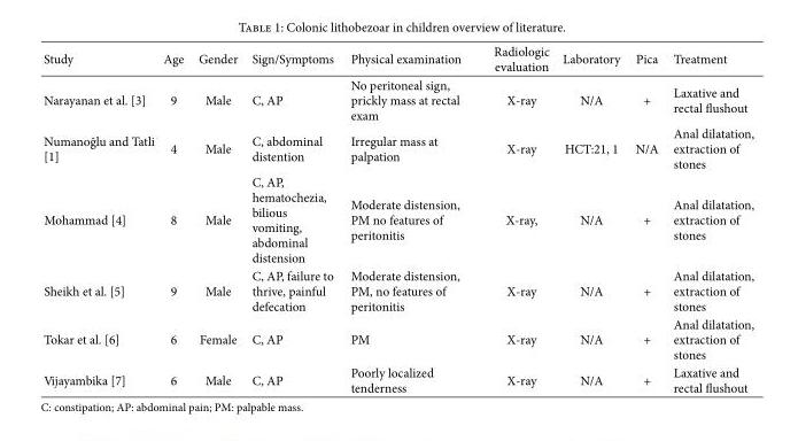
<table><thead><tr><td>Study</td><td>Age</td><td>Gender</td><td>Sign/Symptoms</td><td>Physical examination</td><td>Radiologic evaluation</td><td>Laboratory</td><td>Pica</td><td>Treatment</td></tr></thead><tbody><tr><td>Narayanan et al. [3]</td><td>9</td><td>Male</td><td>C, AP</td><td>No peritoneal sign, prickly mass at rectal exam</td><td>X-ray</td><td>N/A</td><td>+</td><td>Laxative and rectal �ushout</td></tr><tr><td>Numanoğlu and Tatli [1]</td><td>4</td><td>Male</td><td>C, abdominal distention</td><td>Irregular mass at palpation</td><td>X-ray</td><td>HCT:21, 1</td><td>N/A</td><td>Anal dilatation, extraction of stones</td></tr><tr><td>Mohammad [4]</td><td>8</td><td>Male</td><td>C, AP, hematochezia, bilious vomiting, abdominal distension</td><td>Moderate distension, PM no features of peritonitis</td><td>X-ray,</td><td>N/A</td><td>+</td><td>Anal dilatation, extraction of stones</td></tr><tr><td>Sheikh et al. [5]</td><td>9</td><td>Male</td><td>C, AP, failure to thrive, painful defecation</td><td>Moderate distension, PM, no features of peritonitis</td><td>X-ray</td><td>N/A</td><td>+</td><td>Anal dilatation, extraction of stones</td></tr><tr><td>Tokar et al. [6]</td><td>6</td><td>Female</td><td>C, AP</td><td>PM</td><td>X-ray</td><td>N/A</td><td>+</td><td>Anal dilatation, extraction of stones</td></tr><tr><td>Vijayambika [7]</td><td>6</td><td>Male</td><td>C, AP</td><td>Poorly localized tenderness</td><td>X-ray</td><td>N/A</td><td>+</td><td>Laxative and rectal �ushout</td></tr></tbody></table>